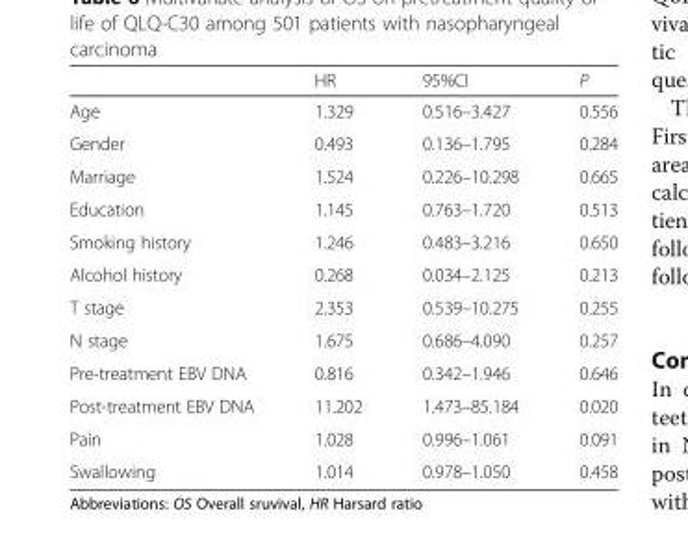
<table><thead><tr><td></td><td>HR</td><td>95%CI</td><td>P</td></tr></thead><tbody><tr><td>Age</td><td>1.329</td><td>0.516–3.427</td><td>0.556</td></tr><tr><td>Gender</td><td>0.493</td><td>0.136–1.795</td><td>0.284</td></tr><tr><td>Marriage</td><td>1.524</td><td>0.226–10.298</td><td>0.665</td></tr><tr><td>Education</td><td>1.145</td><td>0.763–1.720</td><td>0.513</td></tr><tr><td>Smoking history</td><td>1.246</td><td>0.483–3.216</td><td>0.650</td></tr><tr><td>Alcohol history</td><td>0.268</td><td>0.034–2.125</td><td>0.213</td></tr><tr><td>T stage</td><td>2.353</td><td>0.539–10.275</td><td>0.255</td></tr><tr><td>N stage</td><td>1.675</td><td>0.686–4.090</td><td>0.257</td></tr><tr><td>Pre-treatment EBV DNA</td><td>0.816</td><td>0.342–1.946</td><td>0.646</td></tr><tr><td>Post-treatment EBV DNA</td><td>11.202</td><td>1.473–85.184</td><td>0.020</td></tr><tr><td>Pain</td><td>1.028</td><td>0.996–1.061</td><td>0.091</td></tr><tr><td>Swallowing</td><td>1.014</td><td>0.978–1.050</td><td>0.458</td></tr></tbody></table>